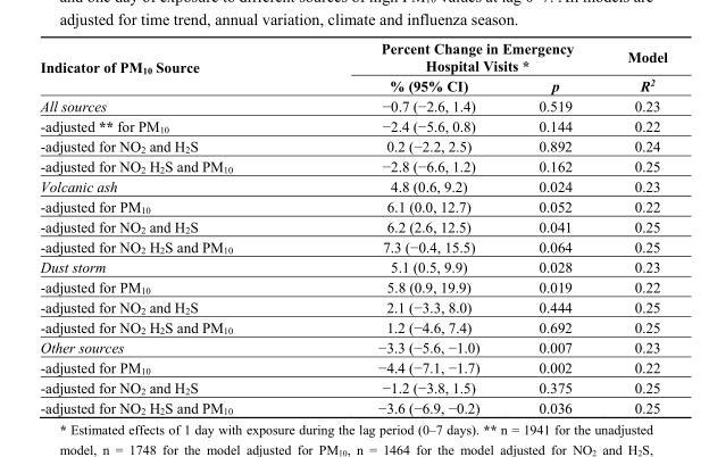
<table><thead><tr><td rowspan="2">Indicator of PM<sub>10</sub> Source</td><td colspan="2">Percent Change in Emergency Hospital Visits *</td><td rowspan="2">Model R<sup>2</sup></td></tr><tr><td>% (95% CI)</td><td>p</td></tr></thead><tbody><tr><td>All sources</td><td>−0.7 (−2.6, 1.4)</td><td>0.519</td><td>0.23</td></tr><tr><td>-adjusted ** for PM<sub>10</sub></td><td>−2.4 (−5.6, 0.8)</td><td>0.144</td><td>0.22</td></tr><tr><td>-adjusted for NO<sub>2</sub> and H<sub>2</sub>S</td><td>0.2 (−2.2, 2.5)</td><td>0.892</td><td>0.24</td></tr><tr><td>-adjusted for NO<sub>2</sub> H<sub>2</sub>S and PM<sub>10</sub></td><td>−2.8 (−6.6, 1.2)</td><td>0.162</td><td>0.25</td></tr><tr><td>Volcanic ash</td><td>4.8 (0.6, 9.2)</td><td>0.024</td><td>0.23</td></tr><tr><td>-adjusted for PM<sub>10</sub></td><td>6.1 (0.0, 12.7)</td><td>0.052</td><td>0.22</td></tr><tr><td>-adjusted for NO<sub>2</sub> and H<sub>2</sub>S</td><td>6.2 (2.6, 12.5)</td><td>0.041</td><td>0.25</td></tr><tr><td>-adjusted for NO<sub>2</sub> H<sub>2</sub>S and PM<sub>10</sub></td><td>7.3 (−0.4, 15.5)</td><td>0.064</td><td>0.25</td></tr><tr><td>Dust storm</td><td>5.1 (0.5, 9.9)</td><td>0.028</td><td>0.23</td></tr><tr><td>-adjusted for PM<sub>10</sub></td><td>5.8 (0.9, 19.9)</td><td>0.019</td><td>0.22</td></tr><tr><td>-adjusted for NO<sub>2</sub> and H<sub>2</sub>S</td><td>2.1 (−3.3, 8.0)</td><td>0.444</td><td>0.25</td></tr><tr><td>-adjusted for NO<sub>2</sub> H<sub>2</sub>S and PM<sub>10</sub></td><td>1.2 (−4.6, 7.4)</td><td>0.692</td><td>0.25</td></tr><tr><td>Other sources</td><td>−3.3 (−5.6, −1.0)</td><td>0.007</td><td>0.23</td></tr><tr><td>-adjusted for PM<sub>10</sub></td><td>−4.4 (−7.1, −1.7)</td><td>0.002</td><td>0.22</td></tr><tr><td>-adjusted for NO<sub>2</sub> and H<sub>2</sub>S</td><td>−1.2 (−3.8, 1.5)</td><td>0.375</td><td>0.25</td></tr><tr><td>-adjusted for NO<sub>2</sub> H<sub>2</sub>S and PM<sub>10</sub></td><td>−3.6 (−6.9, −0.2)</td><td>0.036</td><td>0.25</td></tr></tbody></table>